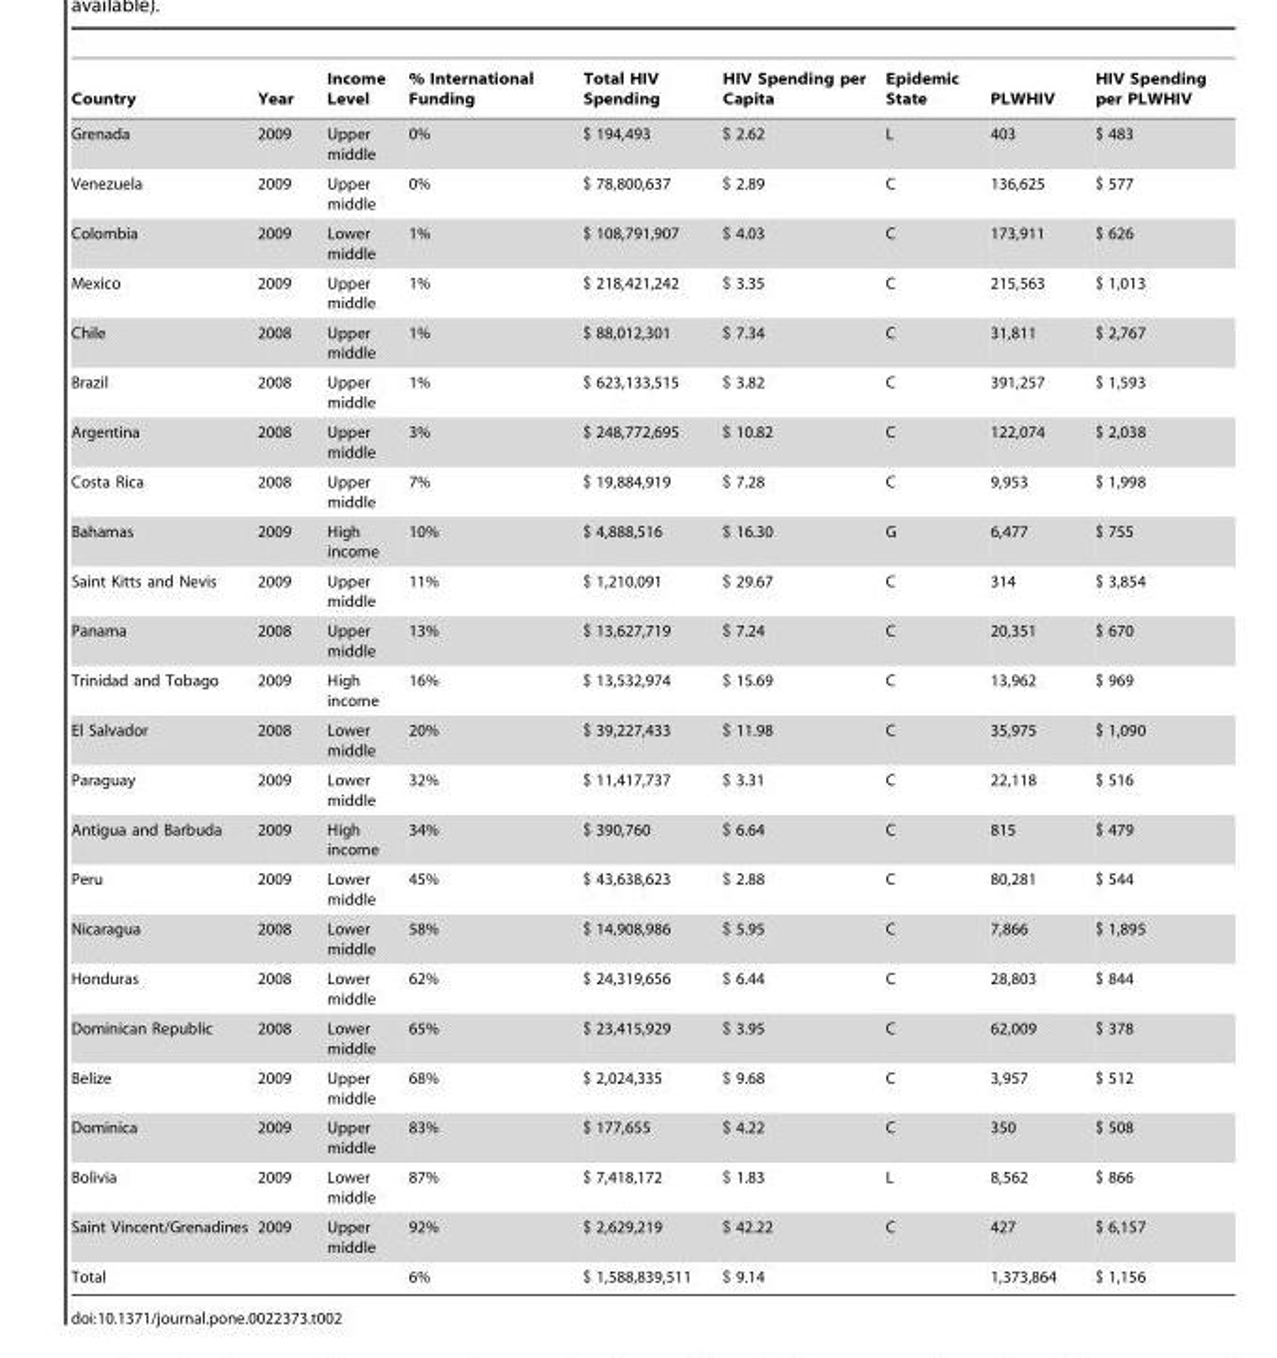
<table><thead><tr><td>Country</td><td>Year</td><td>Income Level</td><td>% International Funding</td><td>Total HIV Spending</td><td>HIV Spending per Capita</td><td>Epidemic State</td><td>PLWHIV</td><td>HIV Spending per PLWHIV</td></tr></thead><tbody><tr><td>Grenada</td><td>2009</td><td>Upper middle</td><td>0%</td><td>$ 194,493</td><td>$ 2.62</td><td>L</td><td>403</td><td>$ 483</td></tr><tr><td>Venezuela</td><td>2009</td><td>Upper middle</td><td>0%</td><td>$ 78,800,637</td><td>$ 2.89</td><td>C</td><td>136,625</td><td>$ 577</td></tr><tr><td>Colombia</td><td>2009</td><td>Lower middle</td><td>1%</td><td>$ 108,791,907</td><td>$ 4.03</td><td>C</td><td>173,911</td><td>$ 626</td></tr><tr><td>Mexico</td><td>2009</td><td>Upper middle</td><td>1%</td><td>$ 218,421,242</td><td>$ 3.35</td><td>C</td><td>215,563</td><td>$ 1,013</td></tr><tr><td>Chile</td><td>2008</td><td>Upper middle</td><td>1%</td><td>$ 88,012,301</td><td>$ 7.34</td><td>C</td><td>31,811</td><td>$ 2,767</td></tr><tr><td>Brazil</td><td>2008</td><td>Upper middle</td><td>1%</td><td>$ 623,133,515</td><td>$ 3.82</td><td>C</td><td>391,257</td><td>$ 1,593</td></tr><tr><td>Argentina</td><td>2008</td><td>Upper middle</td><td>3%</td><td>$ 248,772,695</td><td>$ 10.82</td><td>C</td><td>122,074</td><td>$ 2,038</td></tr><tr><td>Costa Rica</td><td>2008</td><td>Upper middle</td><td>7%</td><td>$ 19,884,919</td><td>$ 7.28</td><td>C</td><td>9,953</td><td>$ 1,998</td></tr><tr><td>Bahamas</td><td>2009</td><td>High income</td><td>10%</td><td>$ 4,888,516</td><td>$ 16.30</td><td>G</td><td>6,477</td><td>$ 755</td></tr><tr><td>Saint Kitts and Nevis</td><td>2009</td><td>Upper middle</td><td>11%</td><td>$ 1,210,091</td><td>$ 29.67</td><td>C</td><td>314</td><td>$ 3,854</td></tr><tr><td>Panama</td><td>2008</td><td>Upper middle</td><td>13%</td><td>$ 13,627,719</td><td>$ 7.24</td><td>C</td><td>20,351</td><td>$ 670</td></tr><tr><td>Trinidad and Tobago</td><td>2009</td><td>High income</td><td>16%</td><td>$ 13,532,974</td><td>$ 15.69</td><td>C</td><td>13,962</td><td>$ 969</td></tr><tr><td>El Salvador</td><td>2008</td><td>Lower middle</td><td>20%</td><td>$ 39,227,433</td><td>$ 11.98</td><td>C</td><td>35,975</td><td>$ 1,090</td></tr><tr><td>Paraguay</td><td>2009</td><td>Lower middle</td><td>32%</td><td>$ 11,417,737</td><td>$ 3.31</td><td>C</td><td>22,118</td><td>$ 516</td></tr><tr><td>Antigua and Barbuda</td><td>2009</td><td>High income</td><td>34%</td><td>$ 390,760</td><td>$ 6.64</td><td>C</td><td>815</td><td>$ 479</td></tr><tr><td>Peru</td><td>2009</td><td>Lower middle</td><td>45%</td><td>$ 43,638,623</td><td>$ 2.88</td><td>C</td><td>80,281</td><td>$ 544</td></tr><tr><td>Nicaragua</td><td>2008</td><td>Lower middle</td><td>58%</td><td>$ 14,908,986</td><td>$ 5.95</td><td>C</td><td>7,866</td><td>$ 1,895</td></tr><tr><td>Honduras</td><td>2008</td><td>Lower middle</td><td>62%</td><td>$ 24,319,656</td><td>$ 6.44</td><td>C</td><td>28,803</td><td>$ 844</td></tr><tr><td>Dominican Republic</td><td>2008</td><td>Lower middle</td><td>65%</td><td>$ 23,415,929</td><td>$ 3.95</td><td>C</td><td>62,009</td><td>$ 378</td></tr><tr><td>Belize</td><td>2009</td><td>Upper middle</td><td>68%</td><td>$ 2,024,335</td><td>$ 9.68</td><td>C</td><td>3,957</td><td>$ 512</td></tr><tr><td>Dominica</td><td>2009</td><td>Upper middle</td><td>83%</td><td>$ 177,655</td><td>$ 4.22</td><td>C</td><td>350</td><td>$ 508</td></tr><tr><td>Bolivia</td><td>2009</td><td>Lower middle</td><td>87%</td><td>$ 7,418,172</td><td>$ 1.83</td><td>L</td><td>8,562</td><td>$ 866</td></tr><tr><td>Saint Vincent/Grenadines</td><td>2009</td><td>Upper middle</td><td>92%</td><td>$ 2,629,219</td><td>$ 42.22</td><td>C</td><td>427</td><td>$ 6,157</td></tr><tr><td>Total</td><td></td><td></td><td>6%</td><td>$ 1,588,839,511</td><td>$ 9.14</td><td></td><td>1,373,864</td><td>$ 1,156</td></tr></tbody></table>